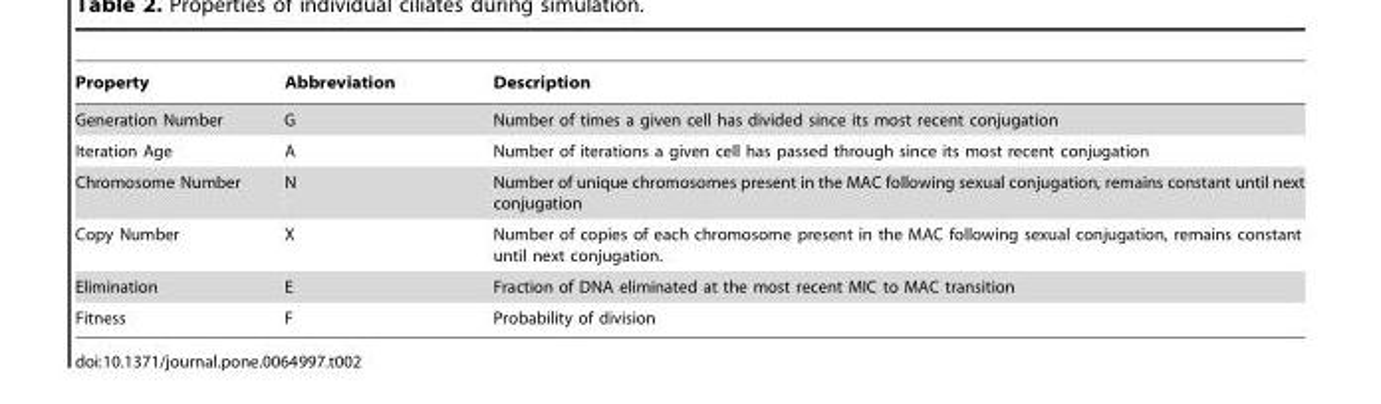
<table><thead><tr><td>Property</td><td>Abbreviation</td><td>Description</td></tr></thead><tbody><tr><td>Generation Number</td><td>G</td><td>Number of times a given cell has divided since its most recent conjugation</td></tr><tr><td>Iteration Age</td><td>A</td><td>Number of iterations a given cell has passed through since its most recent conjugation</td></tr><tr><td>Chromosome Number</td><td>N</td><td>Number of unique chromosomes present in the MAC following sexual conjugation, remains constant until next conjugation</td></tr><tr><td>Copy Number</td><td>X</td><td>Number of copies of each chromosome present in the MAC following sexual conjugation, remains constant until next conjugation.</td></tr><tr><td>Elimination</td><td>E</td><td>Fraction of DNA eliminated at the most recent MIC to MAC transition</td></tr><tr><td>Fitness</td><td>F</td><td>Probability of division</td></tr></tbody></table>